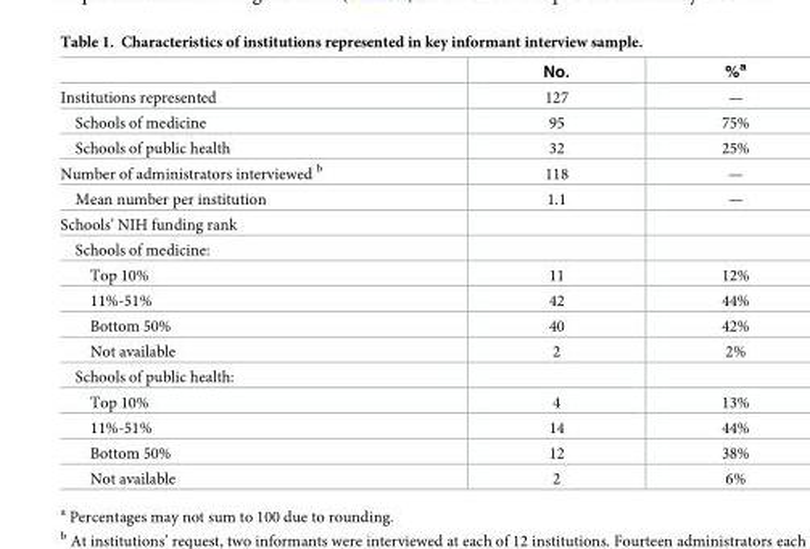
<table><thead><tr><td></td><td>No.</td><td>%<sup>a</sup></td></tr></thead><tbody><tr><td>Institutions represented</td><td>127</td><td>—</td></tr><tr><td>Schools of medicine</td><td>95</td><td>75%</td></tr><tr><td>Schools of public health</td><td>32</td><td>25%</td></tr><tr><td>Number of administrators interviewed <sup>b</sup></td><td>118</td><td>—</td></tr><tr><td>Mean number per institution</td><td>1.1</td><td>—</td></tr><tr><td colspan="3">Schools’ NIH funding rank</td></tr><tr><td colspan="3">Schools of medicine:</td></tr><tr><td>Top 10%</td><td>11</td><td>12%</td></tr><tr><td>11%-51%</td><td>42</td><td>44%</td></tr><tr><td>Bottom 50%</td><td>40</td><td>42%</td></tr><tr><td>Not available</td><td>2</td><td>2%</td></tr><tr><td colspan="3">Schools of public health:</td></tr><tr><td>Top 10%</td><td>4</td><td>13%</td></tr><tr><td>11%-51%</td><td>14</td><td>44%</td></tr><tr><td>Bottom 50%</td><td>12</td><td>38%</td></tr><tr><td>Not available</td><td>2</td><td>6%</td></tr></tbody></table>